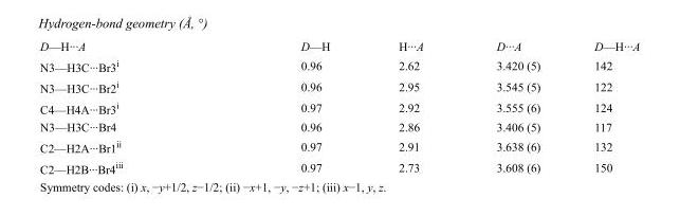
<table><tbody><tr><td>D—H···A</td><td>D—H</td><td>H···A</td><td>D···A</td><td>D—H···A</td></tr><tr><td>N3—H3C···Br3<sup>i</sup></td><td>0.96</td><td>2.62</td><td>3.420 (5)</td><td>142</td></tr><tr><td>N3—H3C···Br2<sup>i</sup></td><td>0.96</td><td>2.95</td><td>3.545 (5)</td><td>122</td></tr><tr><td>C4—H4A···Br3<sup>i</sup></td><td>0.97</td><td>2.92</td><td>3.555 (6)</td><td>124</td></tr><tr><td>N3—H3C···Br4</td><td>0.96</td><td>2.86</td><td>3.406 (5)</td><td>117</td></tr><tr><td>C2—H2A···Br1<sup>ii</sup></td><td>0.97</td><td>2.91</td><td>3.638 (6)</td><td>132</td></tr><tr><td>C2—H2B···Br4<sup>iii</sup></td><td>0.97</td><td>2.73</td><td>3.608 (6)</td><td>150</td></tr></tbody></table>